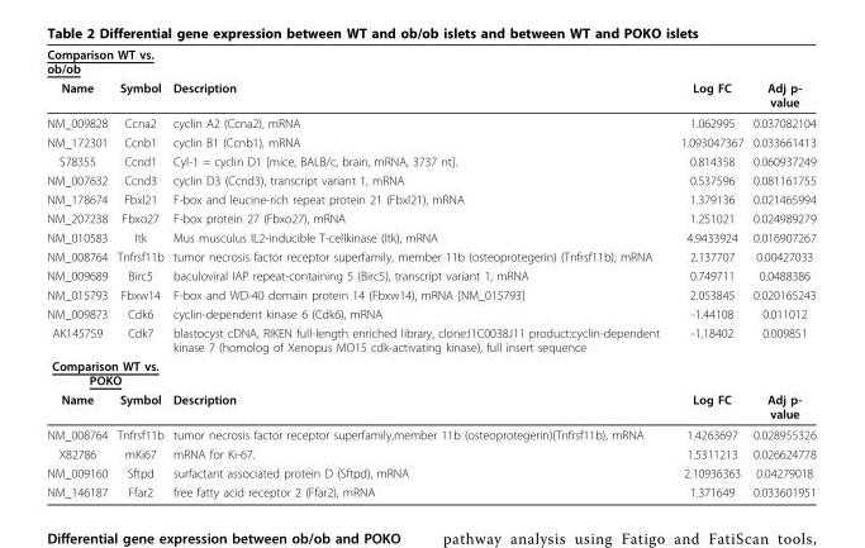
<table><thead><tr><td colspan="2">Comparison WT vs. ob/ob</td><td rowspan="2">Description</td><td rowspan="2">Log FC</td><td rowspan="2">Adj p- value</td></tr><tr><td>Name</td><td>Symbol</td></tr></thead><tbody><tr><td>NM_009828</td><td>Ccna2</td><td>cyclin A2 (Ccna2), mRNA</td><td>1.062995</td><td>0.037082104</td></tr><tr><td>NM_172301</td><td>Ccnb1</td><td>cyclin B1 (Ccnb1), mRNA</td><td>1.093047367</td><td>0.033661413</td></tr><tr><td>S78355</td><td>Ccnd1</td><td>Cyl-1 = cyclin D1 [mice, BALB/c, brain, mRNA, 3737 nt].</td><td>0.814358</td><td>0.060937249</td></tr><tr><td>NM_007632</td><td>Ccnd3</td><td>cyclin D3 (Ccnd3), transcript variant 1, mRNA</td><td>0.537596</td><td>0.081161755</td></tr><tr><td>NM_178674</td><td>Fbxl21</td><td>F-box and leucine-rich repeat protein 21 (Fbxl21), mRNA</td><td>1.379136</td><td>0.021465994</td></tr><tr><td>NM_207238</td><td>Fbxo27</td><td>F-box protein 27 (Fbxo27), mRNA</td><td>1.251021</td><td>0.024989279</td></tr><tr><td>NM_010583</td><td>Itk</td><td>Mus musculus IL2-inducible T-cellkinase (Itk), mRNA</td><td>4.9433924</td><td>0.016907267</td></tr><tr><td>NM_008764</td><td>Tnfrsf11b</td><td>tumor necrosis factor receptor superfamily, member 11b (osteoprotegerin) (Tnfrsf11b), mRNA</td><td>2.137707</td><td>0.00427033</td></tr><tr><td>NM_009689</td><td>Birc5</td><td>baculoviral IAP repeat-containing 5 (Birc5), transcript variant 1, mRNA</td><td>0.749711</td><td>0.0488386</td></tr><tr><td>NM_015793</td><td>Fbxw14</td><td>F-box and WD-40 domain protein 14 (Fbxw14), mRNA [NM_015793]</td><td>2.053845</td><td>0.020165243</td></tr><tr><td>NM_009873</td><td>Cdk6</td><td>cyclin-dependent kinase 6 (Cdk6), mRNA</td><td>-1.44108</td><td>0.011012</td></tr><tr><td>AK145759</td><td>Cdk7</td><td>blastocyst cDNA, RIKEN full-length enriched library, clone:I1C0038J11 product:cyclin-dependent kinase 7 (homolog of Xenopus MO15 cdk-activating kinase), full insert sequence</td><td>-1.18402</td><td>0.009851</td></tr><tr><td colspan="5">Comparison WT vs. POKO</td></tr><tr><td>Name</td><td>Symbol</td><td>Description</td><td>Log FC</td><td>Adj p- value</td></tr><tr><td>NM_008764</td><td>Tnfrsf11b</td><td>tumor necrosis factor receptor superfamily,member 11b (osteoprotegerin)(Tnfrsf11b), mRNA</td><td>1.4263697</td><td>0.028955326</td></tr><tr><td>X82786</td><td>mKi67</td><td>mRNA for Ki-67.</td><td>1.5311213</td><td>0.026624778</td></tr><tr><td>NM_009160</td><td>Sftpd</td><td>surfactant associated protein D (Sftpd), mRNA</td><td>2.10936363</td><td>0.04279018</td></tr><tr><td>NM_146187</td><td>Ffar2</td><td>free fatty acid receptor 2 (Ffar2), mRNA</td><td>1.371649</td><td>0.033601951</td></tr></tbody></table>